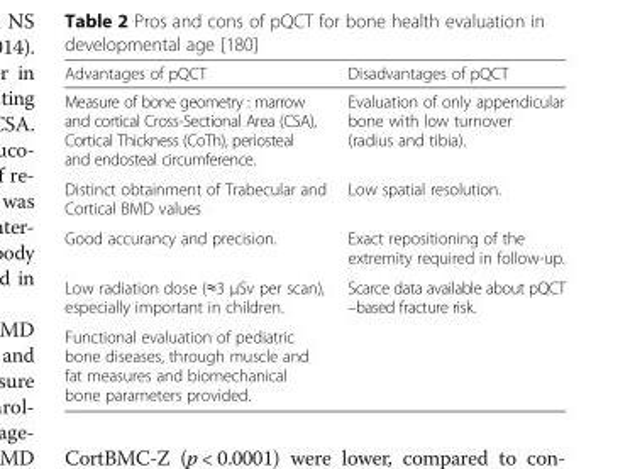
<table><thead><tr><td>Advantages of pQCT</td><td>Disadvantages of pQCT</td></tr></thead><tbody><tr><td>Measure of bone geometry : marrow and cortical Cross-Sectional Area (CSA), Cortical Thickness (CoTh), periosteal and endosteal circumference.</td><td>Evaluation of only appendicular bone with low turnover (radius and tibia).</td></tr><tr><td>Distinct obtainment of Trabecular and Cortical BMD values</td><td>Low spatial resolution.</td></tr><tr><td>Good accurancy and precision.</td><td>Exact repositioning of the extremity required in follow-up.</td></tr><tr><td>Low radiation dose (≈3 μSv per scan), especially important in children.</td><td>Scarce data available about pQCT –based fracture risk.</td></tr><tr><td>Functional evaluation of pediatric bone diseases, through muscle and fat measures and biomechanical bone parameters provided.</td><td></td></tr></tbody></table>